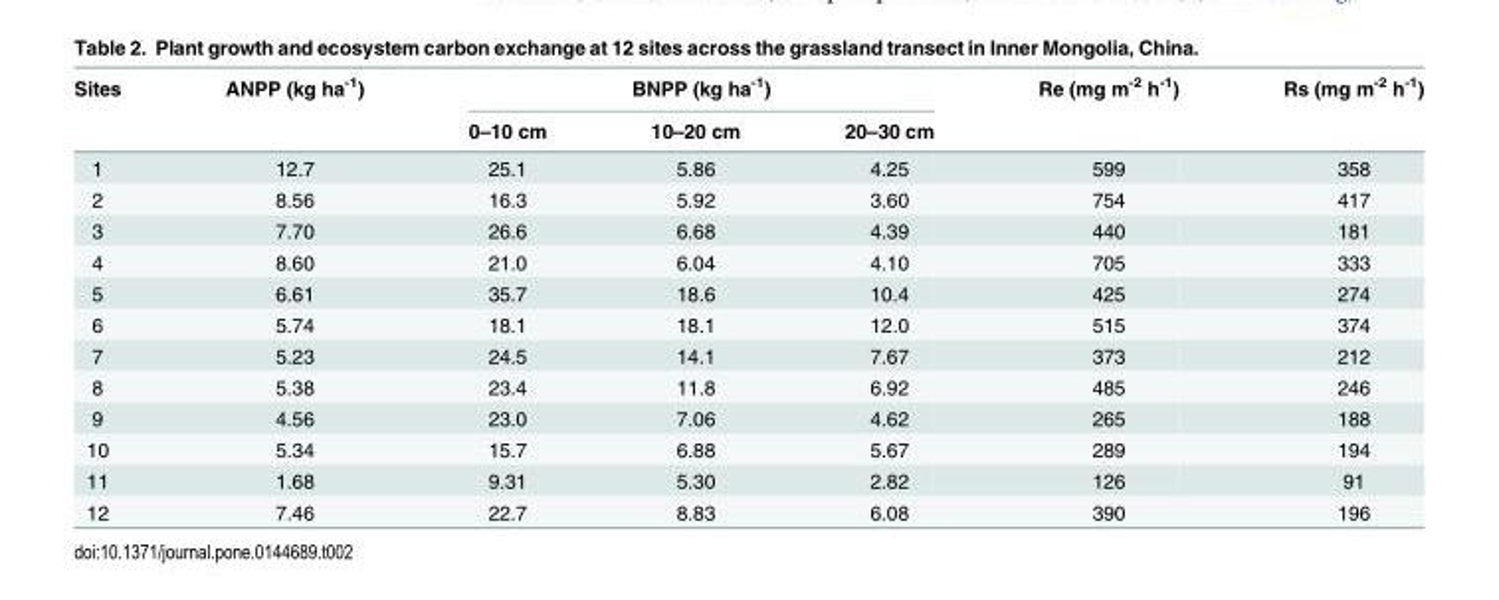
<table><thead><tr><td rowspan="2">Sites</td><td rowspan="2">ANPP (kg ha<sup>-1</sup>)</td><td colspan="3">BNPP (kg ha<sup>-1</sup>)</td><td rowspan="2">Re (mg m<sup>-2</sup> h<sup>-1</sup>)</td><td rowspan="2">Rs (mg m<sup>-2</sup> h<sup>-1</sup>)</td></tr><tr><td>0–10 cm</td><td>10–20 cm</td><td>20–30 cm</td></tr></thead><tbody><tr><td>1</td><td>12.7</td><td>25.1</td><td>5.86</td><td>4.25</td><td>599</td><td>358</td></tr><tr><td>2</td><td>8.56</td><td>16.3</td><td>5.92</td><td>3.60</td><td>754</td><td>417</td></tr><tr><td>3</td><td>7.70</td><td>26.6</td><td>6.68</td><td>4.39</td><td>440</td><td>181</td></tr><tr><td>4</td><td>8.60</td><td>21.0</td><td>6.04</td><td>4.10</td><td>705</td><td>333</td></tr><tr><td>5</td><td>6.61</td><td>35.7</td><td>18.6</td><td>10.4</td><td>425</td><td>274</td></tr><tr><td>6</td><td>5.74</td><td>18.1</td><td>18.1</td><td>12.0</td><td>515</td><td>374</td></tr><tr><td>7</td><td>5.23</td><td>24.5</td><td>14.1</td><td>7.67</td><td>373</td><td>212</td></tr><tr><td>8</td><td>5.38</td><td>23.4</td><td>11.8</td><td>6.92</td><td>485</td><td>246</td></tr><tr><td>9</td><td>4.56</td><td>23.0</td><td>7.06</td><td>4.62</td><td>265</td><td>188</td></tr><tr><td>10</td><td>5.34</td><td>15.7</td><td>6.88</td><td>5.67</td><td>289</td><td>194</td></tr><tr><td>11</td><td>1.68</td><td>9.31</td><td>5.30</td><td>2.82</td><td>126</td><td>91</td></tr><tr><td>12</td><td>7.46</td><td>22.7</td><td>8.83</td><td>6.08</td><td>390</td><td>196</td></tr></tbody></table>